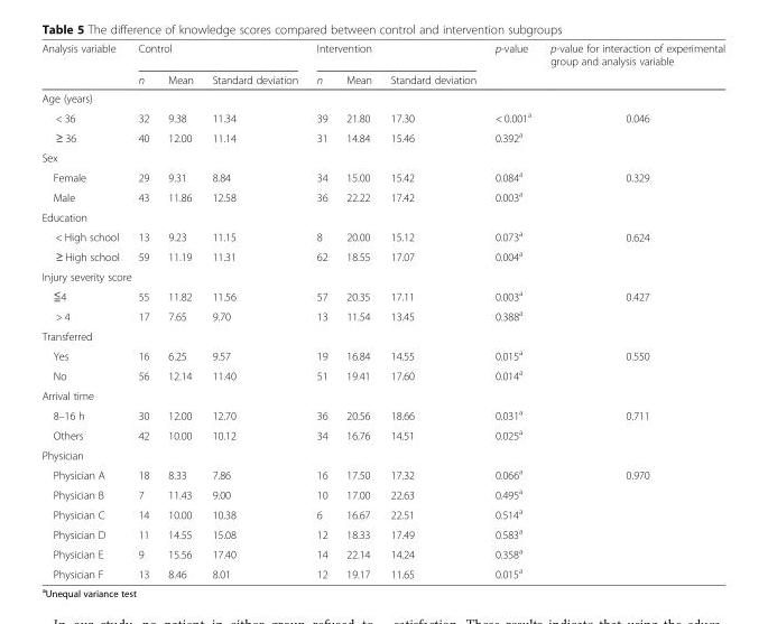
<table><thead><tr><td rowspan="2">Analysis variable</td><td colspan="3">Control</td><td colspan="3">Intervention</td><td rowspan="2">p-value</td><td rowspan="2">p-value for interaction of experimental group and analysis variable</td></tr><tr><td>n</td><td>Mean</td><td>Standard deviation</td><td>n</td><td>Mean</td><td>Standard deviation</td></tr></thead><tbody><tr><td colspan="9">Age (years)</td></tr><tr><td>&lt; 36</td><td>32</td><td>9.38</td><td>11.34</td><td>39</td><td>21.80</td><td>17.30</td><td>&lt; 0.001<sup>a</sup></td><td>0.046</td></tr><tr><td>≥ 36</td><td>40</td><td>12.00</td><td>11.14</td><td>31</td><td>14.84</td><td>15.46</td><td>0.392<sup>a</sup></td><td></td></tr><tr><td colspan="9">Sex</td></tr><tr><td>Female</td><td>29</td><td>9.31</td><td>8.84</td><td>34</td><td>15.00</td><td>15.42</td><td>0.084<sup>a</sup></td><td>0.329</td></tr><tr><td>Male</td><td>43</td><td>11.86</td><td>12.58</td><td>36</td><td>22.22</td><td>17.42</td><td>0.003<sup>a</sup></td><td></td></tr><tr><td colspan="9">Education</td></tr><tr><td>&lt; High school</td><td>13</td><td>9.23</td><td>11.15</td><td>8</td><td>20.00</td><td>15.12</td><td>0.073<sup>a</sup></td><td>0.624</td></tr><tr><td>≥ High school</td><td>59</td><td>11.19</td><td>11.31</td><td>62</td><td>18.55</td><td>17.07</td><td>0.004<sup>a</sup></td><td></td></tr><tr><td colspan="9">Injury severity score</td></tr><tr><td>≦4</td><td>55</td><td>11.82</td><td>11.56</td><td>57</td><td>20.35</td><td>17.11</td><td>0.003<sup>a</sup></td><td>0.427</td></tr><tr><td>&gt; 4</td><td>17</td><td>7.65</td><td>9.70</td><td>13</td><td>11.54</td><td>13.45</td><td>0.388<sup>a</sup></td><td></td></tr><tr><td colspan="9">Transferred</td></tr><tr><td>Yes</td><td>16</td><td>6.25</td><td>9.57</td><td>19</td><td>16.84</td><td>14.55</td><td>0.015<sup>a</sup></td><td>0.550</td></tr><tr><td>No</td><td>56</td><td>12.14</td><td>11.40</td><td>51</td><td>19.41</td><td>17.60</td><td>0.014<sup>a</sup></td><td></td></tr><tr><td colspan="9">Arrival time</td></tr><tr><td>8–16 h</td><td>30</td><td>12.00</td><td>12.70</td><td>36</td><td>20.56</td><td>18.66</td><td>0.031<sup>a</sup></td><td>0.711</td></tr><tr><td>Others</td><td>42</td><td>10.00</td><td>10.12</td><td>34</td><td>16.76</td><td>14.51</td><td>0.025<sup>a</sup></td><td></td></tr><tr><td colspan="9">Physician</td></tr><tr><td>Physician A</td><td>18</td><td>8.33</td><td>7.86</td><td>16</td><td>17.50</td><td>17.32</td><td>0.066<sup>a</sup></td><td>0.970</td></tr><tr><td>Physician B</td><td>7</td><td>11.43</td><td>9.00</td><td>10</td><td>17.00</td><td>22.63</td><td>0.495<sup>a</sup></td><td></td></tr><tr><td>Physician C</td><td>14</td><td>10.00</td><td>10.38</td><td>6</td><td>16.67</td><td>22.51</td><td>0.514<sup>a</sup></td><td></td></tr><tr><td>Physician D</td><td>11</td><td>14.55</td><td>15.08</td><td>12</td><td>18.33</td><td>17.49</td><td>0.583<sup>a</sup></td><td></td></tr><tr><td>Physician E</td><td>9</td><td>15.56</td><td>17.40</td><td>14</td><td>22.14</td><td>14.24</td><td>0.358<sup>a</sup></td><td></td></tr><tr><td>Physician F</td><td>13</td><td>8.46</td><td>8.01</td><td>12</td><td>19.17</td><td>11.65</td><td>0.015<sup>a</sup></td><td></td></tr></tbody></table>